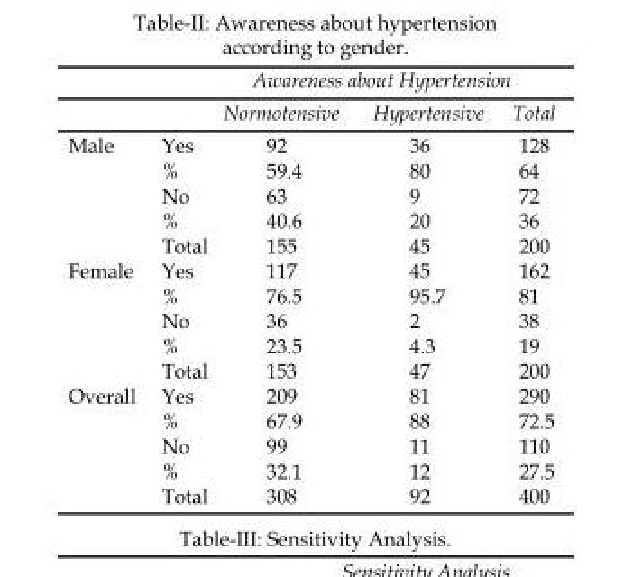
<table><thead><tr><td rowspan="2"></td><td rowspan="2"></td><td colspan="3">Awareness about Hypertension</td></tr><tr><td>Normotensive</td><td>Hypertensive</td><td>Total</td></tr></thead><tbody><tr><td rowspan="5">Male</td><td>Yes</td><td>92</td><td>36</td><td>128</td></tr><tr><td>%</td><td>59.4</td><td>80</td><td>64</td></tr><tr><td>No</td><td>63</td><td>9</td><td>72</td></tr><tr><td>%</td><td>40.6</td><td>20</td><td>36</td></tr><tr><td>Total</td><td>155</td><td>45</td><td>200</td></tr><tr><td rowspan="5">Female</td><td>Yes</td><td>117</td><td>45</td><td>162</td></tr><tr><td>%</td><td>76.5</td><td>95.7</td><td>81</td></tr><tr><td>No</td><td>36</td><td>2</td><td>38</td></tr><tr><td>%</td><td>23.5</td><td>4.3</td><td>19</td></tr><tr><td>Total</td><td>153</td><td>47</td><td>200</td></tr><tr><td rowspan="5">Overall</td><td>Yes</td><td>209</td><td>81</td><td>290</td></tr><tr><td>%</td><td>67.9</td><td>88</td><td>72.5</td></tr><tr><td>No</td><td>99</td><td>11</td><td>110</td></tr><tr><td>%</td><td>32.1</td><td>12</td><td>27.5</td></tr><tr><td>Total</td><td>308</td><td>92</td><td>400</td></tr></tbody></table>